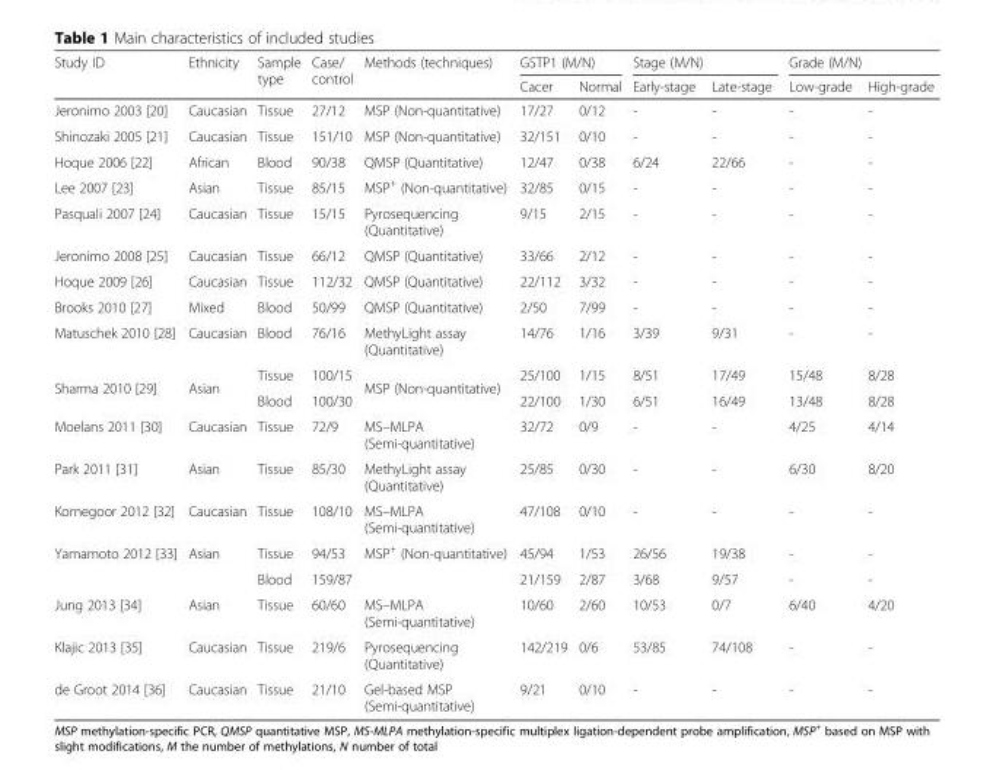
<table><thead><tr><td rowspan="2">Study ID</td><td rowspan="2">Ethnicity</td><td rowspan="2">Sample type</td><td rowspan="2">Case/ control</td><td rowspan="2">Methods (techniques)</td><td colspan="2">GSTP1 (M/N)</td><td colspan="2">Stage (M/N)</td><td colspan="2">Grade (M/N)</td></tr><tr><td>Cacer</td><td>Normal</td><td>Early-stage</td><td>Late-stage</td><td>Low-grade</td><td>High-grade</td></tr></thead><tbody><tr><td>Jeronimo 2003 [20]</td><td>Caucasian</td><td>Tissue</td><td>27/12</td><td>MSP (Non-quantitative)</td><td>17/27</td><td>0/12</td><td>-</td><td>-</td><td>-</td><td>-</td></tr><tr><td>Shinozaki 2005 [21]</td><td>Caucasian</td><td>Tissue</td><td>151/10</td><td>MSP (Non-quantitative)</td><td>32/151</td><td>0/10</td><td>-</td><td>-</td><td>-</td><td>-</td></tr><tr><td>Hoque 2006 [22]</td><td>African</td><td>Blood</td><td>90/38</td><td>QMSP (Quantitative)</td><td>12/47</td><td>0/38</td><td>6/24</td><td>22/66</td><td>-</td><td>-</td></tr><tr><td>Lee 2007 [23]</td><td>Asian</td><td>Tissue</td><td>85/15</td><td>MSP<sup>+</sup> (Non-quantitative)</td><td>32/85</td><td>0/15</td><td>-</td><td>-</td><td>-</td><td>-</td></tr><tr><td>Pasquali 2007 [24]</td><td>Caucasian</td><td>Tissue</td><td>15/15</td><td>Pyrosequencing (Quantitative)</td><td>9/15</td><td>2/15</td><td>-</td><td>-</td><td>-</td><td>-</td></tr><tr><td>Jeronimo 2008 [25]</td><td>Caucasian</td><td>Tissue</td><td>66/12</td><td>QMSP (Quantitative)</td><td>33/66</td><td>2/12</td><td>-</td><td>-</td><td>-</td><td>-</td></tr><tr><td>Hoque 2009 [26]</td><td>Caucasian</td><td>Tissue</td><td>112/32</td><td>QMSP (Quantitative)</td><td>22/112</td><td>3/32</td><td>-</td><td>-</td><td>-</td><td>-</td></tr><tr><td>Brooks 2010 [27]</td><td>Mixed</td><td>Blood</td><td>50/99</td><td>QMSP (Quantitative)</td><td>2/50</td><td>7/99</td><td>-</td><td>-</td><td>-</td><td>-</td></tr><tr><td>Matuschek 2010 [28]</td><td>Caucasian</td><td>Blood</td><td>76/16</td><td>MethyLight assay (Quantitative)</td><td>14/76</td><td>1/16</td><td>3/39</td><td>9/31</td><td>-</td><td>-</td></tr><tr><td rowspan="2">Sharma 2010 [29]</td><td rowspan="2">Asian</td><td>Tissue</td><td>100/15</td><td rowspan="2">MSP (Non-quantitative)</td><td>25/100</td><td>1/15</td><td>8/51</td><td>17/49</td><td>15/48</td><td>8/28</td></tr><tr><td>Blood</td><td>100/30</td><td>22/100</td><td>1/30</td><td>6/51</td><td>16/49</td><td>13/48</td><td>8/28</td></tr><tr><td>Moelans 2011 [30]</td><td>Caucasian</td><td>Tissue</td><td>72/9</td><td>MS–MLPA (Semi-quantitative)</td><td>32/72</td><td>0/9</td><td>-</td><td>-</td><td>4/25</td><td>4/14</td></tr><tr><td>Park 2011 [31]</td><td>Asian</td><td>Tissue</td><td>85/30</td><td>MethyLight assay (Quantitative)</td><td>25/85</td><td>0/30</td><td>-</td><td>-</td><td>6/30</td><td>8/20</td></tr><tr><td>Kornegoor 2012 [32]</td><td>Caucasian</td><td>Tissue</td><td>108/10</td><td>MS–MLPA (Semi-quantitative)</td><td>47/108</td><td>0/10</td><td>-</td><td>-</td><td>-</td><td>-</td></tr><tr><td rowspan="2">Yamamoto 2012 [33]</td><td rowspan="2">Asian</td><td>Tissue</td><td>94/53</td><td rowspan="2">MSP<sup>+</sup> (Non-quantitative)</td><td>45/94</td><td>1/53</td><td>26/56</td><td>19/38</td><td>-</td><td>-</td></tr><tr><td>Blood</td><td>159/87</td><td>21/159</td><td>2/87</td><td>3/68</td><td>9/57</td><td>-</td><td>-</td></tr><tr><td>Jung 2013 [34]</td><td>Asian</td><td>Tissue</td><td>60/60</td><td>MS–MLPA (Semi-quantitative)</td><td>10/60</td><td>2/60</td><td>10/53</td><td>0/7</td><td>6/40</td><td>4/20</td></tr><tr><td>Klajic 2013 [35]</td><td>Caucasian</td><td>Tissue</td><td>219/6</td><td>Pyrosequencing (Quantitative)</td><td>142/219</td><td>0/6</td><td>53/85</td><td>74/108</td><td>-</td><td>-</td></tr><tr><td>de Groot 2014 [36]</td><td>Caucasian</td><td>Tissue</td><td>21/10</td><td>Gel-based MSP (Semi-quantitative)</td><td>9/21</td><td>0/10</td><td>-</td><td>-</td><td>-</td><td>-</td></tr></tbody></table>